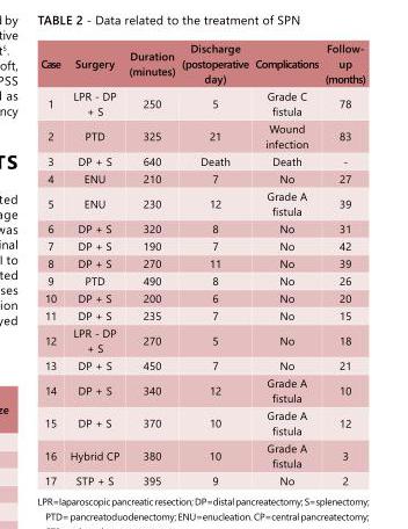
<table><tbody><tr><td>Case</td><td>Surgery</td><td>Duration (minutes)</td><td>Discharge (postoperative day)</td><td>Complications</td><td>Follow- up (months)</td></tr><tr><td>1</td><td>LPR - DP + S</td><td>250</td><td>5</td><td>Grade C fistula</td><td>78</td></tr><tr><td>2</td><td>PTD</td><td>325</td><td>21</td><td>Wound infection</td><td>83</td></tr><tr><td>3</td><td>DP + S</td><td>640</td><td>Death</td><td>Death</td><td>-</td></tr><tr><td>4</td><td>ENU</td><td>210</td><td>7</td><td>No</td><td>27</td></tr><tr><td>5</td><td>ENU</td><td>230</td><td>12</td><td>Grade A fistula</td><td>39</td></tr><tr><td>6</td><td>DP + S</td><td>320</td><td>8</td><td>No</td><td>31</td></tr><tr><td>7</td><td>DP + S</td><td>190</td><td>7</td><td>No</td><td>42</td></tr><tr><td>8</td><td>DP + S</td><td>270</td><td>11</td><td>No</td><td>39</td></tr><tr><td>9</td><td>PTD</td><td>490</td><td>8</td><td>No</td><td>26</td></tr><tr><td>10</td><td>DP + S</td><td>200</td><td>6</td><td>No</td><td>20</td></tr><tr><td>11</td><td>DP + S</td><td>235</td><td>7</td><td>No</td><td>15</td></tr><tr><td>12</td><td>LPR - DP + S</td><td>270</td><td>5</td><td>No</td><td>18</td></tr><tr><td>13</td><td>DP + S</td><td>450</td><td>7</td><td>No</td><td>21</td></tr><tr><td>14</td><td>DP + S</td><td>340</td><td>12</td><td>Grade A fistula</td><td>10</td></tr><tr><td>15</td><td>DP + S</td><td>370</td><td>10</td><td>Grade A fistula</td><td>12</td></tr><tr><td>16</td><td>Hybrid CP</td><td>380</td><td>10</td><td>Grade A fistula</td><td>3</td></tr><tr><td>17</td><td>STP + S</td><td>395</td><td>9</td><td>No</td><td>2</td></tr></tbody></table>